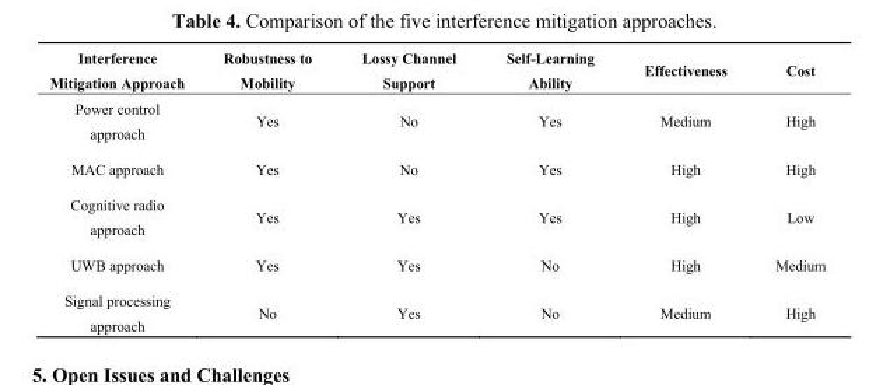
<table><thead><tr><td>Interference Mitigation Approach</td><td>Robustness to Mobility</td><td>Lossy Channel Support</td><td>Self-Learning Ability</td><td>Effectiveness</td><td>Cost</td></tr></thead><tbody><tr><td>Power control approach</td><td>Yes</td><td>No</td><td>Yes</td><td>Medium</td><td>High</td></tr><tr><td>MAC approach</td><td>Yes</td><td>No</td><td>Yes</td><td>High</td><td>High</td></tr><tr><td>Cognitive radio approach</td><td>Yes</td><td>Yes</td><td>Yes</td><td>High</td><td>Low</td></tr><tr><td>UWB approach</td><td>Yes</td><td>Yes</td><td>No</td><td>High</td><td>Medium</td></tr><tr><td>Signal processing approach</td><td>No</td><td>Yes</td><td>No</td><td>Medium</td><td>High</td></tr></tbody></table>